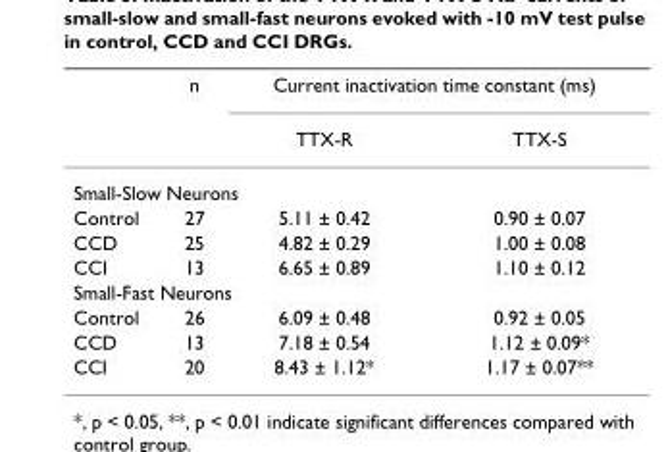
<table><thead><tr><td rowspan="2"></td><td rowspan="2">n</td><td colspan="2">Current inactivation time constant (ms)</td></tr><tr><td>TTX-R</td><td>TTX-S</td></tr></thead><tbody><tr><td colspan="4">Small-Slow Neurons</td></tr><tr><td>Control</td><td>27</td><td>5.11 ± 0.42</td><td>0.90 ± 0.07</td></tr><tr><td>CCD</td><td>25</td><td>4.82 ± 0.29</td><td>1.00 ± 0.08</td></tr><tr><td>CCI</td><td>13</td><td>6.65 ± 0.89</td><td>1.10 ± 0.12</td></tr><tr><td colspan="4">Small-Fast Neurons</td></tr><tr><td>Control</td><td>26</td><td>6.09 ± 0.48</td><td>0.92 ± 0.05</td></tr><tr><td>CCD</td><td>13</td><td>7.18 ± 0.54</td><td>1.12 ± 0.09*</td></tr><tr><td>CCI</td><td>20</td><td>8.43 ± 1.12*</td><td>1.17 ± 0.07**</td></tr></tbody></table>